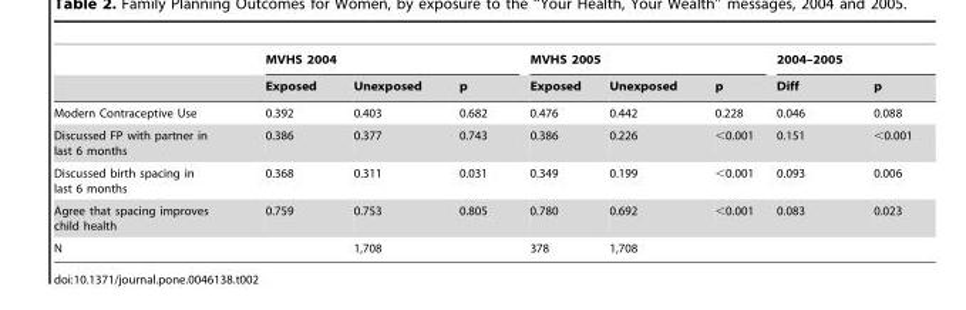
<table><thead><tr><td rowspan="2"></td><td colspan="3">MVHS 2004</td><td colspan="3">MVHS 2005</td><td colspan="2">2004–2005</td></tr><tr><td>Exposed</td><td>Unexposed</td><td>p</td><td>Exposed</td><td>Unexposed</td><td>p</td><td>Diff</td><td>p</td></tr></thead><tbody><tr><td>Modern Contraceptive Use</td><td>0.392</td><td>0.403</td><td>0.682</td><td>0.476</td><td>0.442</td><td>0.228</td><td>0.046</td><td>0.088</td></tr><tr><td>Discussed FP with partner in last 6 months</td><td>0.386</td><td>0.377</td><td>0.743</td><td>0.386</td><td>0.226</td><td>&lt;0.001</td><td>0.151</td><td>&lt;0.001</td></tr><tr><td>Discussed birth spacing in last 6 months</td><td>0.368</td><td>0.311</td><td>0.031</td><td>0.349</td><td>0.199</td><td>&lt;0.001</td><td>0.093</td><td>0.006</td></tr><tr><td>Agree that spacing improves child health</td><td>0.759</td><td>0.753</td><td>0.805</td><td>0.780</td><td>0.692</td><td>&lt;0.001</td><td>0.083</td><td>0.023</td></tr><tr><td>N</td><td></td><td>1,708</td><td></td><td>378</td><td>1,708</td><td></td><td></td><td></td></tr></tbody></table>